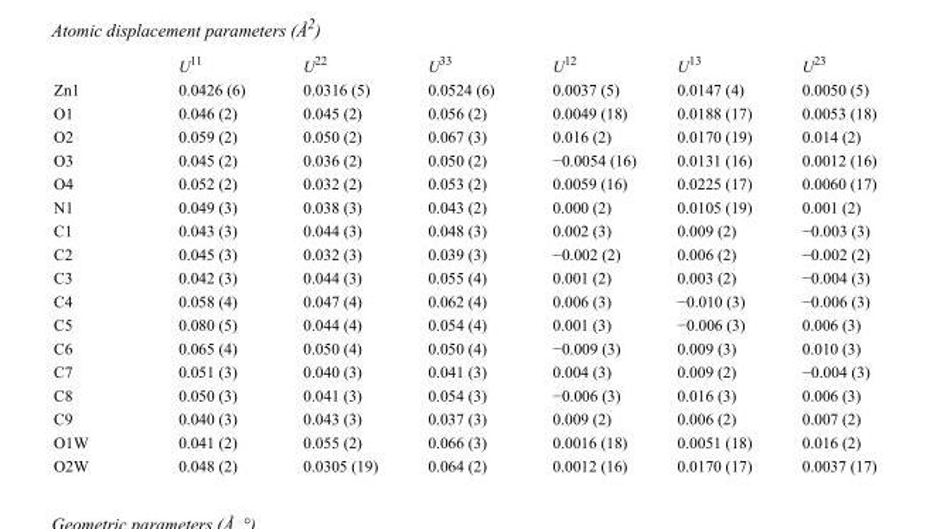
<table><thead><tr><td></td><td>U<sup>11</sup></td><td>U<sup>22</sup></td><td>U<sup>33</sup></td><td>U<sup>12</sup></td><td>U<sup>13</sup></td><td>U<sup>23</sup></td></tr></thead><tbody><tr><td>Zn1</td><td>0.0426 (6)</td><td>0.0316 (5)</td><td>0.0524 (6)</td><td>0.0037 (5)</td><td>0.0147 (4)</td><td>0.0050 (5)</td></tr><tr><td>O1</td><td>0.046 (2)</td><td>0.045 (2)</td><td>0.056 (2)</td><td>0.0049 (18)</td><td>0.0188 (17)</td><td>0.0053 (18)</td></tr><tr><td>O2</td><td>0.059 (2)</td><td>0.050 (2)</td><td>0.067 (3)</td><td>0.016 (2)</td><td>0.0170 (19)</td><td>0.014 (2)</td></tr><tr><td>O3</td><td>0.045 (2)</td><td>0.036 (2)</td><td>0.050 (2)</td><td>−0.0054 (16)</td><td>0.0131 (16)</td><td>0.0012 (16)</td></tr><tr><td>O4</td><td>0.052 (2)</td><td>0.032 (2)</td><td>0.053 (2)</td><td>0.0059 (16)</td><td>0.0225 (17)</td><td>0.0060 (17)</td></tr><tr><td>N1</td><td>0.049 (3)</td><td>0.038 (3)</td><td>0.043 (2)</td><td>0.000 (2)</td><td>0.0105 (19)</td><td>0.001 (2)</td></tr><tr><td>C1</td><td>0.043 (3)</td><td>0.044 (3)</td><td>0.048 (3)</td><td>0.002 (3)</td><td>0.009 (2)</td><td>−0.003 (3)</td></tr><tr><td>C2</td><td>0.045 (3)</td><td>0.032 (3)</td><td>0.039 (3)</td><td>−0.002 (2)</td><td>0.006 (2)</td><td>−0.002 (2)</td></tr><tr><td>C3</td><td>0.042 (3)</td><td>0.044 (3)</td><td>0.055 (4)</td><td>0.001 (2)</td><td>0.003 (2)</td><td>−0.004 (3)</td></tr><tr><td>C4</td><td>0.058 (4)</td><td>0.047 (4)</td><td>0.062 (4)</td><td>0.006 (3)</td><td>−0.010 (3)</td><td>−0.006 (3)</td></tr><tr><td>C5</td><td>0.080 (5)</td><td>0.044 (4)</td><td>0.054 (4)</td><td>0.001 (3)</td><td>−0.006 (3)</td><td>0.006 (3)</td></tr><tr><td>C6</td><td>0.065 (4)</td><td>0.050 (4)</td><td>0.050 (4)</td><td>−0.009 (3)</td><td>0.009 (3)</td><td>0.010 (3)</td></tr><tr><td>C7</td><td>0.051 (3)</td><td>0.040 (3)</td><td>0.041 (3)</td><td>0.004 (3)</td><td>0.009 (2)</td><td>−0.004 (3)</td></tr><tr><td>C8</td><td>0.050 (3)</td><td>0.041 (3)</td><td>0.054 (3)</td><td>−0.006 (3)</td><td>0.016 (3)</td><td>0.006 (3)</td></tr><tr><td>C9</td><td>0.040 (3)</td><td>0.043 (3)</td><td>0.037 (3)</td><td>0.009 (2)</td><td>0.006 (2)</td><td>0.007 (2)</td></tr><tr><td>O1W</td><td>0.041 (2)</td><td>0.055 (2)</td><td>0.066 (3)</td><td>0.0016 (18)</td><td>0.0051 (18)</td><td>0.016 (2)</td></tr><tr><td>O2W</td><td>0.048 (2)</td><td>0.0305 (19)</td><td>0.064 (2)</td><td>0.0012 (16)</td><td>0.0170 (17)</td><td>0.0037 (17)</td></tr></tbody></table>